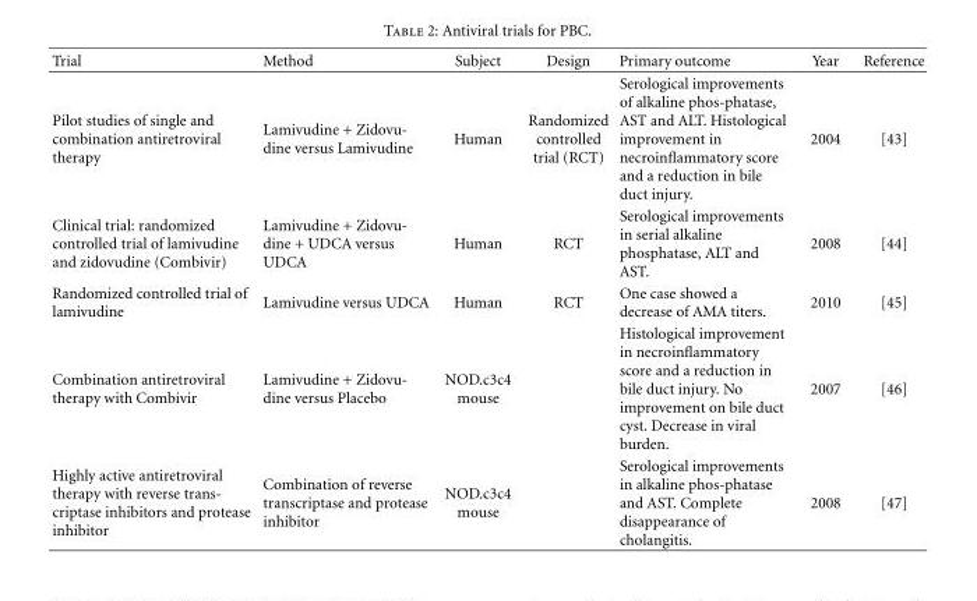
<table><thead><tr><td>Trial</td><td>Method</td><td>Subject</td><td>Design</td><td>Primary outcome</td><td>Year</td><td>Reference</td></tr></thead><tbody><tr><td>Pilot studies of single and combination antiretroviral therapy</td><td>Lamivudine + Zidovu- dine versus Lamivudine</td><td>Human</td><td>Randomized controlled trial (RCT)</td><td>Serological improvements of alkaline phos-phatase, AST and ALT. Histological improvement in necroinflammatory score and a reduction in bile duct injury.</td><td>2004</td><td>[43]</td></tr><tr><td>Clinical trial: randomized controlled trial of lamivudine and zidovudine (Combivir)</td><td>Lamivudine + Zidovu- dine + UDCA versus UDCA</td><td>Human</td><td>RCT</td><td>Serological improvements in serial alkaline phosphatase, ALT and AST.</td><td>2008</td><td>[44]</td></tr><tr><td>Randomized controlled trial of lamivudine</td><td>Lamivudine versus UDCA</td><td>Human</td><td>RCT</td><td>One case showed a decrease of AMA titers.</td><td>2010</td><td>[45]</td></tr><tr><td>Combination antiretroviral therapy with Combivir</td><td>Lamivudine + Zidovu- dine versus Placebo</td><td>NOD.c3c4 mouse</td><td></td><td>Histological improvement in necroinflammatory score and a reduction in bile duct injury. No improvement on bile duct cyst. Decrease in viral burden.</td><td>2007</td><td>[46]</td></tr><tr><td>Highly active antiretroviral therapy with reverse trans- criptase inhibitors and protease inhibitor</td><td>Combination of reverse transcriptase and protease inhibitor</td><td>NOD.c3c4 mouse</td><td></td><td>Serological improvements in alkaline phos-phatase and AST. Complete disappearance of cholangitis.</td><td>2008</td><td>[47]</td></tr></tbody></table>